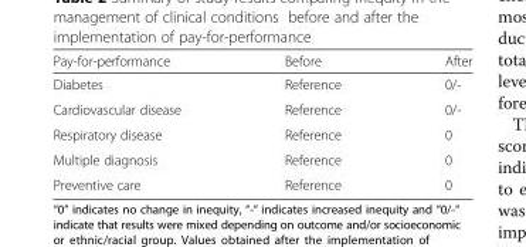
<table><thead><tr><td>Pay-for-performance</td><td>Before</td><td>After</td></tr></thead><tbody><tr><td>Diabetes</td><td>Reference</td><td>0/-</td></tr><tr><td>Cardiovascular disease</td><td>Reference</td><td>0/-</td></tr><tr><td>Respiratory disease</td><td>Reference</td><td>0</td></tr><tr><td>Multiple diagnosis</td><td>Reference</td><td>0</td></tr><tr><td>Preventive care</td><td>Reference</td><td>0</td></tr></tbody></table>